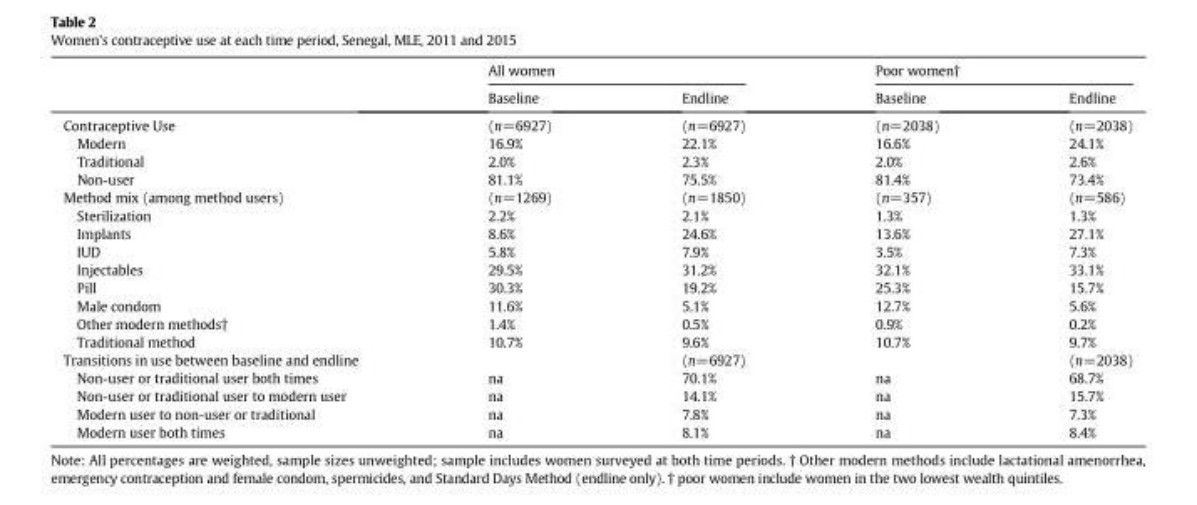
<table><thead><tr><td rowspan="2"></td><td colspan="2">All women</td><td colspan="2">Poor women†</td></tr><tr><td>Baseline</td><td>Endline</td><td>Baseline</td><td>Endline</td></tr></thead><tbody><tr><td>Contraceptive Use</td><td>(n=6927)</td><td>(n=6927)</td><td>(n=2038)</td><td>(n=2038)</td></tr><tr><td>Modern</td><td>16.9%</td><td>22.1%</td><td>16.6%</td><td>24.1%</td></tr><tr><td>Traditional</td><td>2.0%</td><td>2.3%</td><td>2.0%</td><td>2.6%</td></tr><tr><td>Non-user</td><td>81.1%</td><td>75.5%</td><td>81.4%</td><td>73.4%</td></tr><tr><td>Method mix (among method users)</td><td>(n=1269)</td><td>(n=1850)</td><td>(n=357)</td><td>(n=586)</td></tr><tr><td>Sterilization</td><td>2.2%</td><td>2.1%</td><td>1.3%</td><td>1.3%</td></tr><tr><td>Implants</td><td>8.6%</td><td>24.6%</td><td>13.6%</td><td>27.1%</td></tr><tr><td>IUD</td><td>5.8%</td><td>7.9%</td><td>3.5%</td><td>7.3%</td></tr><tr><td>Injectables</td><td>29.5%</td><td>31.2%</td><td>32.1%</td><td>33.1%</td></tr><tr><td>Pill</td><td>30.3%</td><td>19.2%</td><td>25.3%</td><td>15.7%</td></tr><tr><td>Male condom</td><td>11.6%</td><td>5.1%</td><td>12.7%</td><td>5.6%</td></tr><tr><td>Other modern methods†</td><td>1.4%</td><td>0.5%</td><td>0.9%</td><td>0.2%</td></tr><tr><td>Traditional method</td><td>10.7%</td><td>9.6%</td><td>10.7%</td><td>9.7%</td></tr><tr><td>Transitions in use between baseline and endline</td><td></td><td>(n=6927)</td><td></td><td>(n=2038)</td></tr><tr><td>Non-user or traditional user both times</td><td>na</td><td>70.1%</td><td>na</td><td>68.7%</td></tr><tr><td>Non-user or traditional user to modern user</td><td>na</td><td>14.1%</td><td>na</td><td>15.7%</td></tr><tr><td>Modern user to non-user or traditional</td><td>na</td><td>7.8%</td><td>na</td><td>7.3%</td></tr><tr><td>Modern user both times</td><td>na</td><td>8.1%</td><td>na</td><td>8.4%</td></tr></tbody></table>